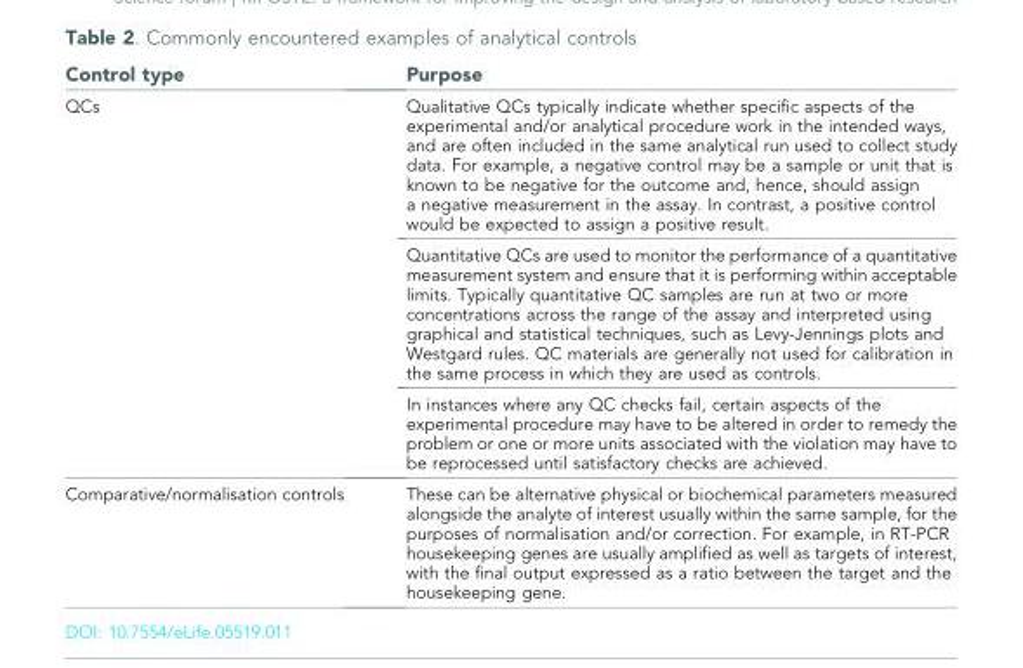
<table><thead><tr><td>Control type</td><td>Purpose</td></tr></thead><tbody><tr><td rowspan="3">QCs</td><td>Qualitative QCs typically indicate whether specific aspects of the experimental and/or analytical procedure work in the intended ways, and are often included in the same analytical run used to collect study data. For example, a negative control may be a sample or unit that is known to be negative for the outcome and, hence, should assign a negative measurement in the assay. In contrast, a positive control would be expected to assign a positive result.</td></tr><tr><td>Quantitative QCs are used to monitor the performance of a quantitative measurement system and ensure that it is performing within acceptable limits. Typically quantitative QC samples are run at two or more concentrations across the range of the assay and interpreted using graphical and statistical techniques, such as Levy-Jennings plots and Westgard rules. QC materials are generally not used for calibration in the same process in which they are used as controls.</td></tr><tr><td>In instances where any QC checks fail, certain aspects of the experimental procedure may have to be altered in order to remedy the problem or one or more units associated with the violation may have to be reprocessed until satisfactory checks are achieved.</td></tr><tr><td>Comparative/normalisation controls</td><td>These can be alternative physical or biochemical parameters measured alongside the analyte of interest usually within the same sample, for the purposes of normalisation and/or correction. For example, in RT-PCR housekeeping genes are usually amplified as well as targets of interest, with the final output expressed as a ratio between the target and the housekeeping gene.</td></tr></tbody></table>